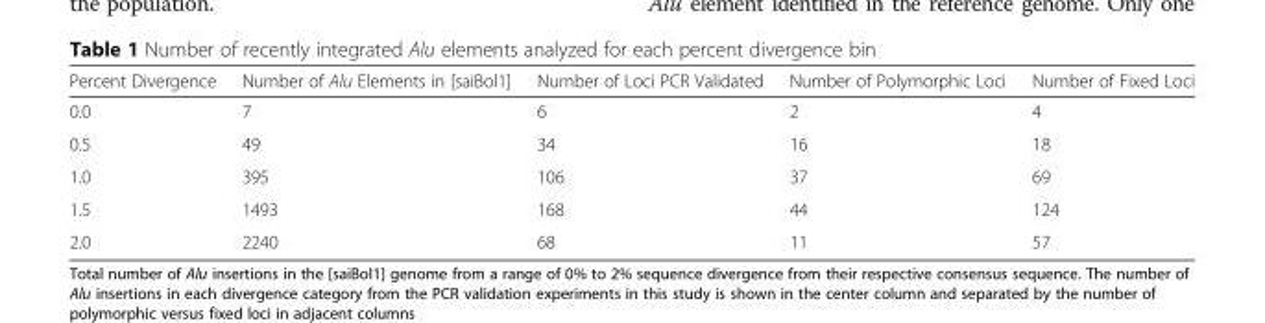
<table><thead><tr><td>Percent Divergence</td><td>Number of Alu Elements in [saiBol1]</td><td>Number of Loci PCR Validated</td><td>Number of Polymorphic Loci</td><td>Number of Fixed Loci</td></tr></thead><tbody><tr><td>0.0</td><td>7</td><td>6</td><td>2</td><td>4</td></tr><tr><td>0.5</td><td>49</td><td>34</td><td>16</td><td>18</td></tr><tr><td>1.0</td><td>395</td><td>106</td><td>37</td><td>69</td></tr><tr><td>1.5</td><td>1493</td><td>168</td><td>44</td><td>124</td></tr><tr><td>2.0</td><td>2240</td><td>68</td><td>11</td><td>57</td></tr></tbody></table>